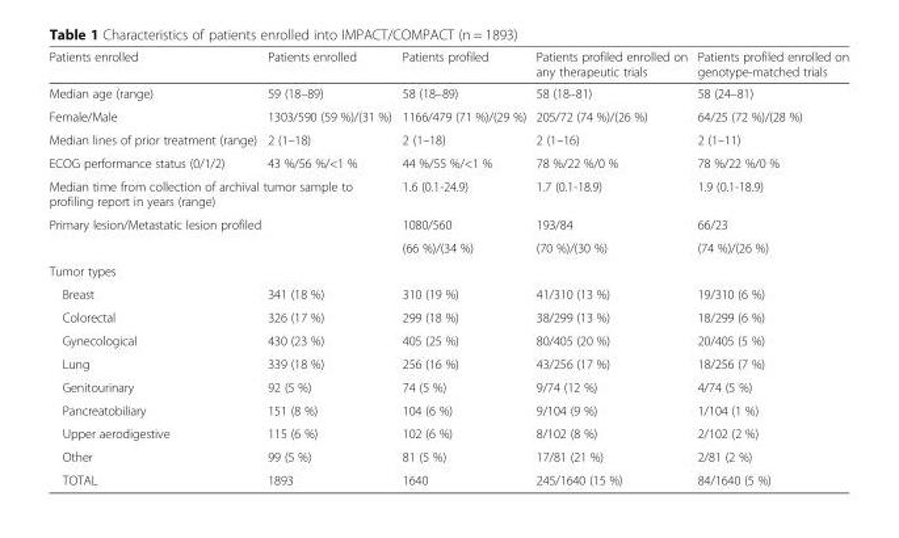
<table><thead><tr><td>Patients enrolled</td><td>Patients enrolled</td><td>Patients profiled</td><td>Patients profiled enrolled on any therapeutic trials</td><td>Patients profiled enrolled on genotype-matched trials</td></tr></thead><tbody><tr><td>Median age (range)</td><td>59 (18–89)</td><td>58 (18–89)</td><td>58 (18–81)</td><td>58 (24–81)</td></tr><tr><td>Female/Male</td><td>1303/590 (59 %)/(31 %)</td><td>1166/479 (71 %)/(29 %)</td><td>205/72 (74 %)/(26 %)</td><td>64/25 (72 %)/(28 %)</td></tr><tr><td>Median lines of prior treatment (range)</td><td>2 (1–18)</td><td>2 (1–18)</td><td>2 (1–16)</td><td>2 (1–11)</td></tr><tr><td>ECOG performance status (0/1/2)</td><td>43 %/56 %/&lt;1 %</td><td>44 %/55 %/&lt;1 %</td><td>78 %/22 %/0 %</td><td>78 %/22 %/0 %</td></tr><tr><td colspan="2">Median time from collection of archival tumor sample to profiling report in years (range)</td><td>1.6 (0.1-24.9)</td><td>1.7 (0.1-18.9)</td><td>1.9 (0.1-18.9)</td></tr><tr><td rowspan="2" colspan="2">Primary lesion/Metastatic lesion profiled</td><td>1080/560</td><td>193/84</td><td>66/23</td></tr><tr><td>(66 %)/(34 %)</td><td>(70 %)/(30 %)</td><td>(74 %)/(26 %)</td></tr><tr><td colspan="5">Tumor types</td></tr><tr><td>Breast</td><td>341 (18 %)</td><td>310 (19 %)</td><td>41/310 (13 %)</td><td>19/310 (6 %)</td></tr><tr><td>Colorectal</td><td>326 (17 %)</td><td>299 (18 %)</td><td>38/299 (13 %)</td><td>18/299 (6 %)</td></tr><tr><td>Gynecological</td><td>430 (23 %)</td><td>405 (25 %)</td><td>80/405 (20 %)</td><td>20/405 (5 %)</td></tr><tr><td>Lung</td><td>339 (18 %)</td><td>256 (16 %)</td><td>43/256 (17 %)</td><td>18/256 (7 %)</td></tr><tr><td>Genitourinary</td><td>92 (5 %)</td><td>74 (5 %)</td><td>9/74 (12 %)</td><td>4/74 (5 %)</td></tr><tr><td>Pancreatobiliary</td><td>151 (8 %)</td><td>104 (6 %)</td><td>9/104 (9 %)</td><td>1/104 (1 %)</td></tr><tr><td>Upper aerodigestive</td><td>115 (6 %)</td><td>102 (6 %)</td><td>8/102 (8 %)</td><td>2/102 (2 %)</td></tr><tr><td>Other</td><td>99 (5 %)</td><td>81 (5 %)</td><td>17/81 (21 %)</td><td>2/81 (2 %)</td></tr><tr><td>TOTAL</td><td>1893</td><td>1640</td><td>245/1640 (15 %)</td><td>84/1640 (5 %)</td></tr></tbody></table>